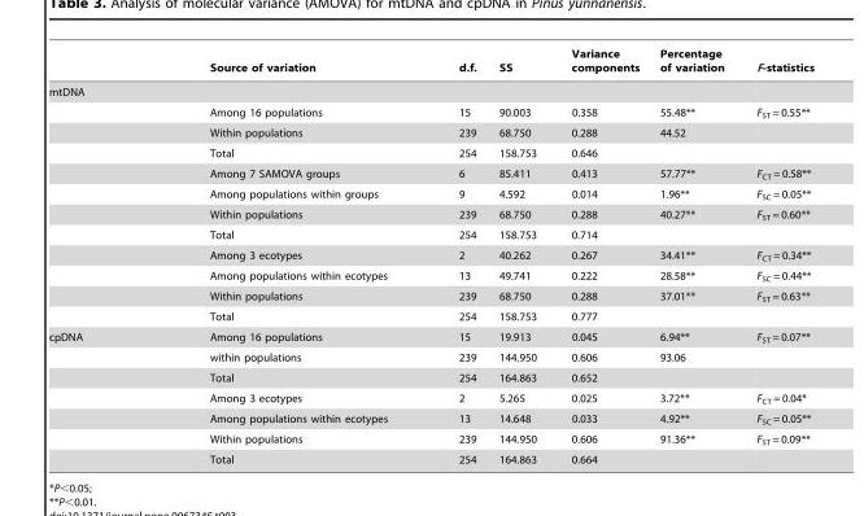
<table><thead><tr><td></td><td>Source of variation</td><td>d.f.</td><td>SS</td><td>Variance components</td><td>Percentage of variation</td><td>F-statistics</td></tr></thead><tbody><tr><td colspan="7">mtDNA</td></tr><tr><td></td><td>Among 16 populations</td><td>15</td><td>90.003</td><td>0.358</td><td>55.48**</td><td>F<sub>ST</sub> = 0.55**</td></tr><tr><td></td><td>Within populations</td><td>239</td><td>68.750</td><td>0.288</td><td>44.52</td><td></td></tr><tr><td></td><td>Total</td><td>254</td><td>158.753</td><td>0.646</td><td></td><td></td></tr><tr><td></td><td>Among 7 SAMOVA groups</td><td>6</td><td>85.411</td><td>0.413</td><td>57.77**</td><td>F<sub>CT</sub> = 0.58**</td></tr><tr><td></td><td>Among populations within groups</td><td>9</td><td>4.592</td><td>0.014</td><td>1.96**</td><td>F<sub>SC</sub> = 0.05**</td></tr><tr><td></td><td>Within populations</td><td>239</td><td>68.750</td><td>0.288</td><td>40.27**</td><td>F<sub>ST</sub> = 0.60**</td></tr><tr><td></td><td>Total</td><td>254</td><td>158.753</td><td>0.714</td><td></td><td></td></tr><tr><td></td><td>Among 3 ecotypes</td><td>2</td><td>40.262</td><td>0.267</td><td>34.41**</td><td>F<sub>CT</sub> = 0.34**</td></tr><tr><td></td><td>Among populations within ecotypes</td><td>13</td><td>49.741</td><td>0.222</td><td>28.58**</td><td>F<sub>SC</sub> = 0.44**</td></tr><tr><td></td><td>Within populations</td><td>239</td><td>68.750</td><td>0.288</td><td>37.01**</td><td>F<sub>ST</sub> = 0.63**</td></tr><tr><td></td><td>Total</td><td>254</td><td>158.753</td><td>0.777</td><td></td><td></td></tr><tr><td rowspan="7">cpDNA</td><td>Among 16 populations</td><td>15</td><td>19.913</td><td>0.045</td><td>6.94**</td><td>F<sub>ST</sub> = 0.07**</td></tr><tr><td>within populations</td><td>239</td><td>144.950</td><td>0.606</td><td>93.06</td><td></td></tr><tr><td>Total</td><td>254</td><td>164.863</td><td>0.652</td><td></td><td></td></tr><tr><td>Among 3 ecotypes</td><td>2</td><td>5.265</td><td>0.025</td><td>3.72**</td><td>F<sub>CT</sub> = 0.04*</td></tr><tr><td>Among populations within ecotypes</td><td>13</td><td>14.648</td><td>0.033</td><td>4.92**</td><td>F<sub>SC</sub> = 0.05**</td></tr><tr><td>Within populations</td><td>239</td><td>144.950</td><td>0.606</td><td>91.36**</td><td>F<sub>ST</sub> = 0.09**</td></tr><tr><td>Total</td><td>254</td><td>164.863</td><td>0.664</td><td></td><td></td></tr></tbody></table>